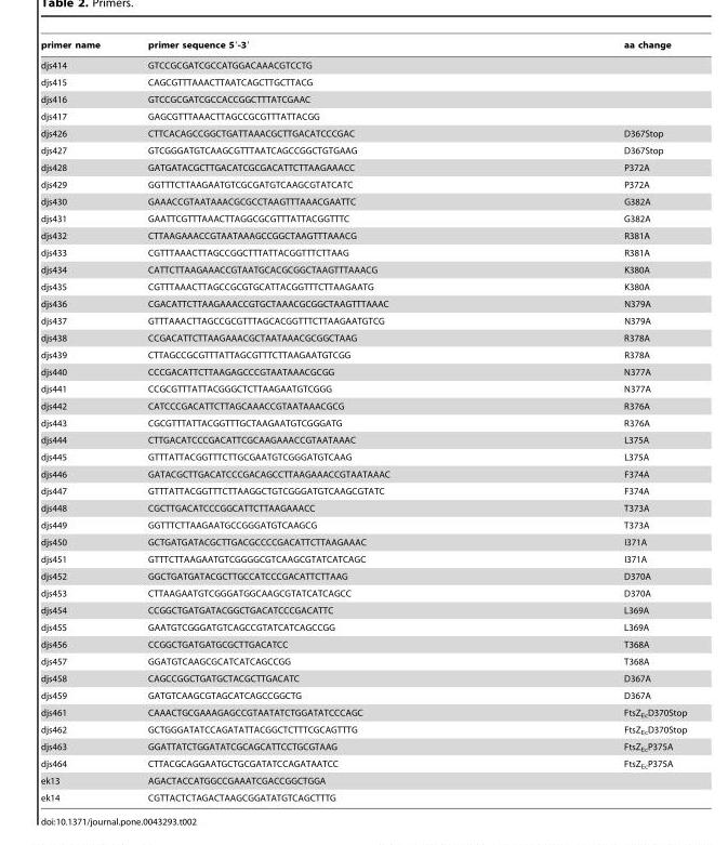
<table><thead><tr><td>primer name</td><td>primer sequence 5′-3′</td><td>aa change</td></tr></thead><tbody><tr><td>djs414</td><td>GTCCGCGATCGCCATGGACAAACGTCCTG</td><td></td></tr><tr><td>djs415</td><td>CAGCGTTTAAACTTAATCAGCTTGCTTACG</td><td></td></tr><tr><td>djs416</td><td>GTCCGCGATCGCCACCGGCTTTATCGAAC</td><td></td></tr><tr><td>djs417</td><td>GAGCGTTTAAACTTAGCCGCGTTTATTACGG</td><td></td></tr><tr><td>djs426</td><td>CTTCACAGCCGGCTGATTAAACGCTTGACATCCCGAC</td><td>D367Stop</td></tr><tr><td>djs427</td><td>GTCGGGATGTCAAGCGTTTAATCAGCCGGCTGTGAAG</td><td>D367Stop</td></tr><tr><td>djs428</td><td>GATGATACGCTTGACATCGCGACATTCTTAAGAAACC</td><td>P372A</td></tr><tr><td>djs429</td><td>GGTTTCTTAAGAATGTCGCGATGTCAAGCGTATCATC</td><td>P372A</td></tr><tr><td>djs430</td><td>GAAACCGTAATAAACGCGCCTAAGTTTAAACGAATTC</td><td>G382A</td></tr><tr><td>djs431</td><td>GAATTCGTTTAAACTTAGGCGCGTTTATTACGGTTTC</td><td>G382A</td></tr><tr><td>djs432</td><td>CTTAAGAAACCGTAATAAAGCCGGCTAAGTTTAAACG</td><td>R381A</td></tr><tr><td>djs433</td><td>CGTTTAAACTTAGCCGGCTTTATTACGGTTTCTTAAG</td><td>R381A</td></tr><tr><td>djs434</td><td>CATTCTTAAGAAACCGTAATGCACGCGGCTAAGTTTAAACG</td><td>K380A</td></tr><tr><td>djs435</td><td>CGTTTAAACTTAGCCGCGTGCATTACGGTTTCTTAAGAATG</td><td>K380A</td></tr><tr><td>djs436</td><td>CGACATTCTTAAGAAACCGTGCTAAACGCGGCTAAGTTTAAAC</td><td>N379A</td></tr><tr><td>djs437</td><td>GTTTAAACTTAGCCGCGTTTAGCACGGTTTCTTAAGAATGTCG</td><td>N379A</td></tr><tr><td>djs438</td><td>CCGACATTCTTAAGAAACGCTAATAAACGCGGCTAAG</td><td>R378A</td></tr><tr><td>djs439</td><td>CTTAGCCGCGTTTATTAGCGTTTCTTAAGAATGTCGG</td><td>R378A</td></tr><tr><td>djs440</td><td>CCCGACATTCTTAAGAGCCCGTAATAAACGCGG</td><td>N377A</td></tr><tr><td>djs441</td><td>CCGCGTTTATTACGGGCTCTTAAGAATGTCGGG</td><td>N377A</td></tr><tr><td>djs442</td><td>CATCCCGACATTCTTAGCAAACCGTAATAAACGCG</td><td>R376A</td></tr><tr><td>djs443</td><td>CGCGTTTATTACGGTTTGCTAAGAATGTCGGGATG</td><td>R376A</td></tr><tr><td>djs444</td><td>CTTGACATCCCGACATTCGCAAGAAACCGTAATAAAC</td><td>L375A</td></tr><tr><td>djs445</td><td>GTTTATTACGGTTTCTTGCGAATGTCGGGATGTCAAG</td><td>L375A</td></tr><tr><td>djs446</td><td>GATACGCTTGACATCCCGACAGCCTTAAGAAACCGTAATAAAC</td><td>F374A</td></tr><tr><td>djs447</td><td>GTTTATTACGGTTTCTTAAGGCTGTCGGGATGTCAAGCGTATC</td><td>F374A</td></tr><tr><td>djs448</td><td>CGCTTGACATCCCGGCATTCTTAAGAAACC</td><td>T373A</td></tr><tr><td>djs449</td><td>GGTTTCTTAAGAATGCCGGGATGTCAAGCG</td><td>T373A</td></tr><tr><td>djs450</td><td>GCTGATGATACGCTTGACGCCCCGACATTCTTAAGAAAC</td><td>I371A</td></tr><tr><td>djs451</td><td>GTTTCTTAAGAATGTCGGGGCGTCAAGCGTATCATCAGC</td><td>I371A</td></tr><tr><td>djs452</td><td>GGCTGATGATACGCTTGCCATCCCGACATTCTTAAG</td><td>D370A</td></tr><tr><td>djs453</td><td>CTTAAGAATGTCGGGATGGCAAGCGTATCATCAGCC</td><td>D370A</td></tr><tr><td>djs454</td><td>CCGGCTGATGATACGGCTGACATCCCGACATTC</td><td>L369A</td></tr><tr><td>djs455</td><td>GAATGTCGGGATGTCAGCCGTATCATCAGCCGG</td><td>L369A</td></tr><tr><td>djs456</td><td>CCGGCTGATGATGCGCTTGACATCC</td><td>T368A</td></tr><tr><td>djs457</td><td>GGATGTCAAGCGCATCATCAGCCGG</td><td>T368A</td></tr><tr><td>djs458</td><td>CAGCCGGCTGATGCTACGCTTGACATC</td><td>D367A</td></tr><tr><td>djs459</td><td>GATGTCAAGCGTAGCATCAGCCGGCTG</td><td>D367A</td></tr><tr><td>djs461</td><td>CAAACTGCGAAAGAGCCGTAATATCTGGATATCCCAGC</td><td>FtsZ<sub>Ec</sub>D370Stop</td></tr><tr><td>djs462</td><td>GCTGGGATATCCAGATATTACGGCTCTTTCGCAGTTTG</td><td>FtsZ<sub>Ec</sub>D370Stop</td></tr><tr><td>djs463</td><td>GGATTATCTGGATATCGCAGCATTCCTGCGTAAG</td><td>FtsZ<sub>Ec</sub>P375A</td></tr><tr><td>djs464</td><td>CTTACGCAGGAATGCTGCGATATCCAGATAATCC</td><td>FtsZ<sub>Ec</sub>P375A</td></tr><tr><td>ek13</td><td>AGACTACCATGGCCGAAATCGACCGGCTGGA</td><td></td></tr><tr><td>ek14</td><td>CGTTACTCTAGACTAAGCGGATATGTCAGCTTTG</td><td></td></tr></tbody></table>